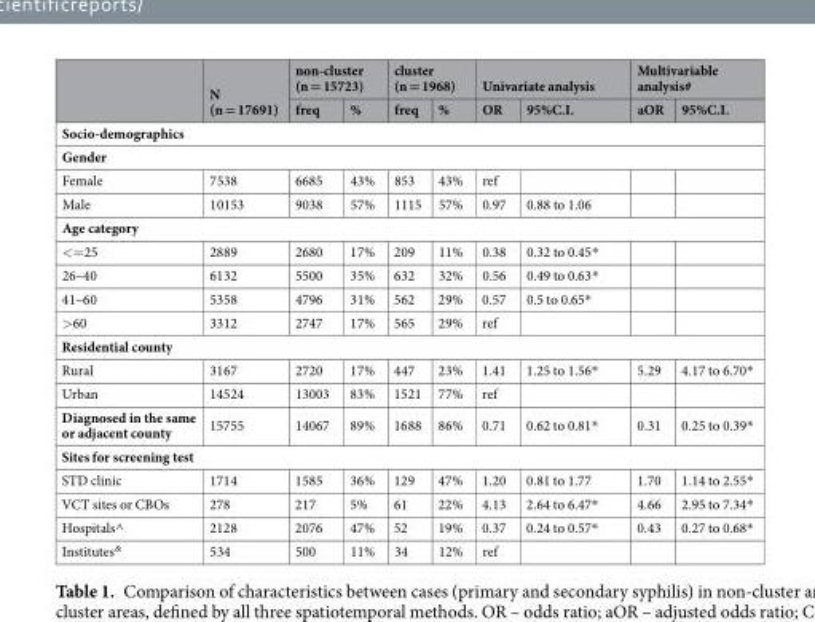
<table><thead><tr><td rowspan="2"></td><td rowspan="2">N (n = 17691)</td><td colspan="2">non-cluster (n = 15723)</td><td colspan="2">cluster (n = 1968)</td><td colspan="2">Univariate analysis</td><td colspan="2">Multivariable analysis#</td></tr><tr><td>freq</td><td>%</td><td>freq</td><td>%</td><td>OR</td><td>95%C.I.</td><td>aOR</td><td>95%C.I.</td></tr></thead><tbody><tr><td colspan="10">Socio-demographics</td></tr><tr><td colspan="10">Gender</td></tr><tr><td>Female</td><td>7538</td><td>6685</td><td>43%</td><td>853</td><td>43%</td><td>ref</td><td></td><td></td><td></td></tr><tr><td>Male</td><td>10153</td><td>9038</td><td>57%</td><td>1115</td><td>57%</td><td>0.97</td><td>0.88 to 1.06</td><td></td><td></td></tr><tr><td colspan="10">Age category</td></tr><tr><td>&lt;=25</td><td>2889</td><td>2680</td><td>17%</td><td>209</td><td>11%</td><td>0.38</td><td>0.32 to 0.45*</td><td></td><td></td></tr><tr><td>26–40</td><td>6132</td><td>5500</td><td>35%</td><td>632</td><td>32%</td><td>0.56</td><td>0.49 to 0.63*</td><td></td><td></td></tr><tr><td>41–60</td><td>5358</td><td>4796</td><td>31%</td><td>562</td><td>29%</td><td>0.57</td><td>0.5 to 0.65*</td><td></td><td></td></tr><tr><td>&gt;60</td><td>3312</td><td>2747</td><td>17%</td><td>565</td><td>29%</td><td>ref</td><td></td><td></td><td></td></tr><tr><td colspan="10">Residential county</td></tr><tr><td>Rural</td><td>3167</td><td>2720</td><td>17%</td><td>447</td><td>23%</td><td>1.41</td><td>1.25 to 1.56*</td><td>5.29</td><td>4.17 to 6.70*</td></tr><tr><td>Urban</td><td>14524</td><td>13003</td><td>83%</td><td>1521</td><td>77%</td><td>ref</td><td></td><td></td><td></td></tr><tr><td>Diagnosed in the same or adjacent county</td><td>15755</td><td>14067</td><td>89%</td><td>1688</td><td>86%</td><td>0.71</td><td>0.62 to 0.81*</td><td>0.31</td><td>0.25 to 0.39*</td></tr><tr><td colspan="10">Sites for screening test</td></tr><tr><td>STD clinic</td><td>1714</td><td>1585</td><td>36%</td><td>129</td><td>47%</td><td>1.20</td><td>0.81 to 1.77</td><td>1.70</td><td>1.14 to 2.55*</td></tr><tr><td>VCT sites or CBOs</td><td>278</td><td>217</td><td>5%</td><td>61</td><td>22%</td><td>4.13</td><td>2.64 to 6.47*</td><td>4.66</td><td>2.95 to 7.34*</td></tr><tr><td>Hospitals^</td><td>2128</td><td>2076</td><td>47%</td><td>52</td><td>19%</td><td>0.37</td><td>0.24 to 0.57*</td><td>0.43</td><td>0.27 to 0.68*</td></tr><tr><td>Institutes<sup>&amp;</sup></td><td>534</td><td>500</td><td>11%</td><td>34</td><td>12%</td><td>ref</td><td></td><td></td><td></td></tr></tbody></table>